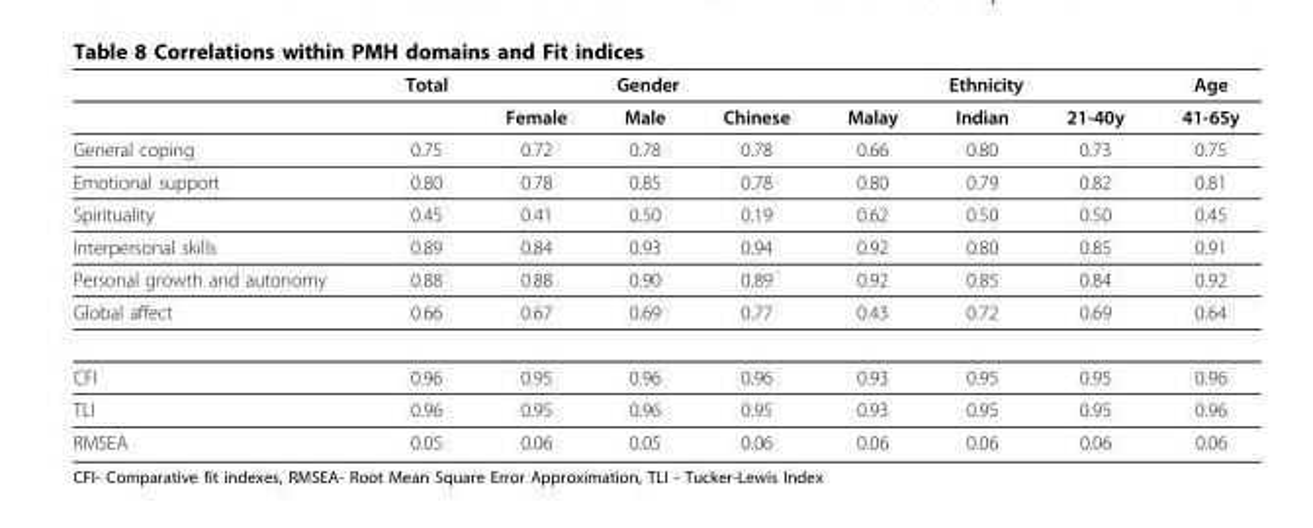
<table><thead><tr><td rowspan="2"></td><td rowspan="2">Total</td><td colspan="3">Gender</td><td colspan="3">Ethnicity</td><td rowspan="2">Age 41-65y</td></tr><tr><td>Female</td><td>Male</td><td>Chinese</td><td>Malay</td><td>Indian</td><td>21-40y</td></tr></thead><tbody><tr><td>General coping</td><td>0.75</td><td>0.72</td><td>0.78</td><td>0.78</td><td>0.66</td><td>0.80</td><td>0.73</td><td>0.75</td></tr><tr><td>Emotional support</td><td>0.80</td><td>0.78</td><td>0.85</td><td>0.78</td><td>0.80</td><td>0.79</td><td>0.82</td><td>0.81</td></tr><tr><td>Spirituality</td><td>0.45</td><td>0.41</td><td>0.50</td><td>0.19</td><td>0.62</td><td>0.50</td><td>0.50</td><td>0.45</td></tr><tr><td>Interpersonal skills</td><td>0.89</td><td>0.84</td><td>0.93</td><td>0.94</td><td>0.92</td><td>0.80</td><td>0.85</td><td>0.91</td></tr><tr><td>Personal growth and autonomy</td><td>0.88</td><td>0.88</td><td>0.90</td><td>0.89</td><td>0.92</td><td>0.85</td><td>0.84</td><td>0.92</td></tr><tr><td>Global affect</td><td>0.66</td><td>0.67</td><td>0.69</td><td>0.77</td><td>0.43</td><td>0.72</td><td>0.69</td><td>0.64</td></tr><tr><td>CFI</td><td>0.96</td><td>0.95</td><td>0.96</td><td>0.96</td><td>0.93</td><td>0.95</td><td>0.95</td><td>0.96</td></tr><tr><td>TLI</td><td>0.96</td><td>0.95</td><td>0.96</td><td>0.95</td><td>0.93</td><td>0.95</td><td>0.95</td><td>0.96</td></tr><tr><td>RMSEA</td><td>0.05</td><td>0.06</td><td>0.05</td><td>0.06</td><td>0.06</td><td>0.06</td><td>0.06</td><td>0.06</td></tr></tbody></table>